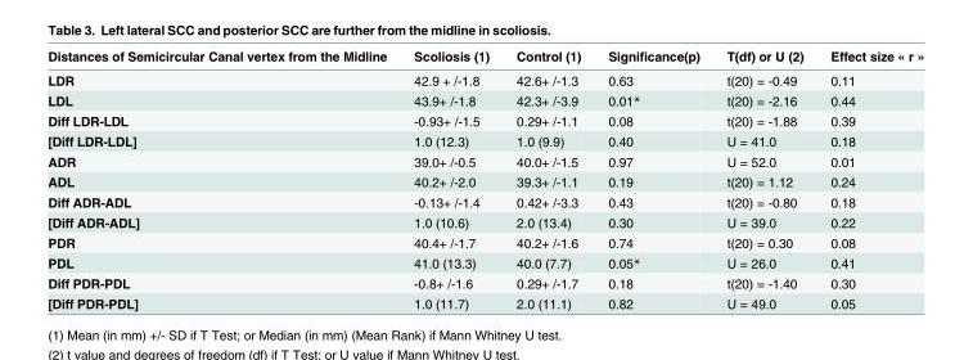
<table><thead><tr><td>Distances of Semicircular Canal vertex from the Midline</td><td>Scoliosis (1)</td><td>Control (1)</td><td>Significance(p)</td><td>T(df) or U (2)</td><td>Effect size « r »</td></tr></thead><tbody><tr><td>LDR</td><td>42.9 + /-1.8</td><td>42.6+ /-1.3</td><td>0.63</td><td>t(20) = -0.49</td><td>0.11</td></tr><tr><td>LDL</td><td>43.9+ /-1.8</td><td>42.3+ /-3.9</td><td>0.01*</td><td>t(20) = -2.16</td><td>0.44</td></tr><tr><td>Diff LDR-LDL</td><td>-0.93+ /-1.5</td><td>0.29+ /-1.1</td><td>0.08</td><td>t(20) = -1.88</td><td>0.39</td></tr><tr><td>[Diff LDR-LDL]</td><td>1.0 (12.3)</td><td>1.0 (9.9)</td><td>0.40</td><td>U = 41.0</td><td>0.18</td></tr><tr><td>ADR</td><td>39.0+ /-0.5</td><td>40.0+ /-1.5</td><td>0.97</td><td>U = 52.0</td><td>0.01</td></tr><tr><td>ADL</td><td>40.2+ /-2.0</td><td>39.3+ /-1.1</td><td>0.19</td><td>t(20) = 1.12</td><td>0.24</td></tr><tr><td>Diff ADR-ADL</td><td>-0.13+ /-1.4</td><td>0.42+ /-3.3</td><td>0.43</td><td>t(20) = -0.80</td><td>0.18</td></tr><tr><td>[Diff ADR-ADL]</td><td>1.0 (10.6)</td><td>2.0 (13.4)</td><td>0.30</td><td>U = 39.0</td><td>0.22</td></tr><tr><td>PDR</td><td>40.4+ /-1.7</td><td>40.2+ /-1.6</td><td>0.74</td><td>t(20) = 0.30</td><td>0.08</td></tr><tr><td>PDL</td><td>41.0 (13.3)</td><td>40.0 (7.7)</td><td>0.05*</td><td>U = 26.0</td><td>0.41</td></tr><tr><td>Diff PDR-PDL</td><td>-0.8+ /-1.6</td><td>0.29+ /-1.7</td><td>0.18</td><td>t(20) = -1.40</td><td>0.30</td></tr><tr><td>[Diff PDR-PDL]</td><td>1.0 (11.7)</td><td>2.0 (11.1)</td><td>0.82</td><td>U = 49.0</td><td>0.05</td></tr></tbody></table>